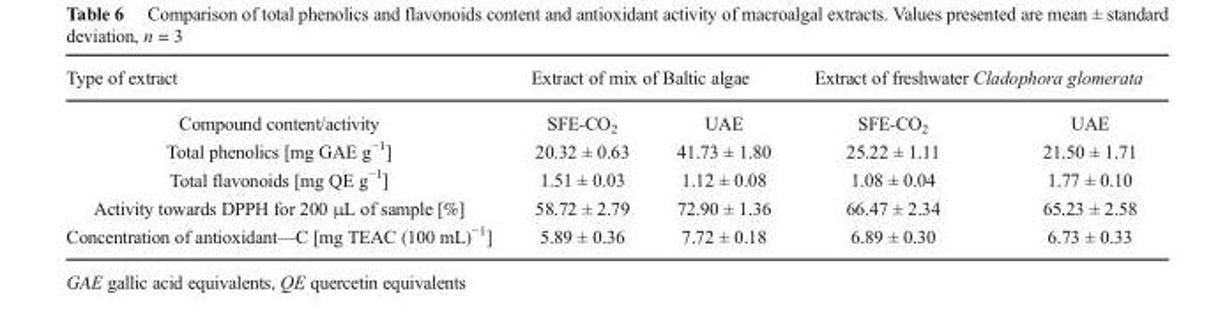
<table><thead><tr><td rowspan="2">Type of extract Compound content/activity</td><td colspan="2">Extract of mix of Baltic algae</td><td colspan="2">Extract of freshwater Cladophora glomerata</td></tr><tr><td>SFE-CO<sub>2</sub></td><td>UAE</td><td>SFE-CO<sub>2</sub></td><td>UAE</td></tr></thead><tbody><tr><td>Total phenolics [mg GAE g<sup>−1</sup>]</td><td>20.32 ± 0.63</td><td>41.73 ± 1.80</td><td>25.22 ± 1.11</td><td>21.50 ± 1.71</td></tr><tr><td>Total flavonoids [mg QE g<sup>−1</sup>]</td><td>1.51 ± 0.03</td><td>1.12 ± 0.08</td><td>1.08 ± 0.04</td><td>1.77 ± 0.10</td></tr><tr><td>Activity towards DPPH for 200 μL of sample [%]</td><td>58.72 ± 2.79</td><td>72.90 ± 1.36</td><td>66.47 ± 2.34</td><td>65.23 ± 2.58</td></tr><tr><td>Concentration of antioxidant—C [mg TEAC (100 mL)<sup>−1</sup>]</td><td>5.89 ± 0.36</td><td>7.72 ± 0.18</td><td>6.89 ± 0.30</td><td>6.73 ± 0.33</td></tr></tbody></table>